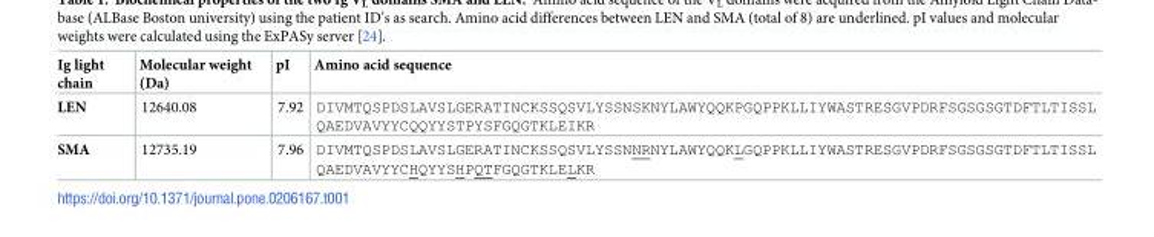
<table><thead><tr><td>Ig light chain</td><td>Molecular weight (Da)</td><td>pI</td><td>Amino acid sequence</td></tr></thead><tbody><tr><td>LEN</td><td>12640.08</td><td>7.92</td><td>DIVMTQSPDSLAVSLGERATINCKSSQSVLYSSNSKNYLAWYQQKPGQPPKLLIYWASTRESGVPDRFSGSGSGTDFTLTISSL QAEDVAVYYCQQYYSTPYSFGQGTKLEIKR</td></tr><tr><td>SMA</td><td>12735.19</td><td>7.96</td><td>DIVMTQSPDSLAVSLGERATINCKSSQSVLYSSNNRNYLAWYQQKLGQPPKLLIYWASTRESGVPDRFSGSGSGTDFTLTISSL QAEDVAVYYCHQYYSHPQTFGQGTKLELKR</td></tr></tbody></table>